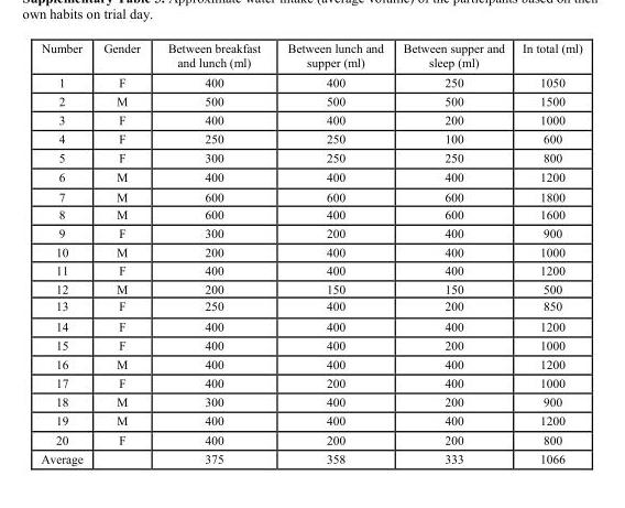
<table><thead><tr><td>Number</td><td>Gender</td><td>Between breakfast and lunch (ml)</td><td>Between lunch and supper (ml)</td><td>Between supper and sleep (ml)</td><td>In total (ml)</td></tr></thead><tbody><tr><td>1</td><td>F</td><td>400</td><td>400</td><td>250</td><td>1050</td></tr><tr><td>2</td><td>M</td><td>500</td><td>500</td><td>500</td><td>1500</td></tr><tr><td>3</td><td>F</td><td>400</td><td>400</td><td>200</td><td>1000</td></tr><tr><td>4</td><td>F</td><td>250</td><td>250</td><td>100</td><td>600</td></tr><tr><td>5</td><td>F</td><td>300</td><td>250</td><td>250</td><td>800</td></tr><tr><td>6</td><td>M</td><td>400</td><td>400</td><td>400</td><td>1200</td></tr><tr><td>7</td><td>M</td><td>600</td><td>600</td><td>600</td><td>1800</td></tr><tr><td>8</td><td>M</td><td>600</td><td>400</td><td>600</td><td>1600</td></tr><tr><td>9</td><td>F</td><td>300</td><td>200</td><td>400</td><td>900</td></tr><tr><td>10</td><td>M</td><td>200</td><td>400</td><td>400</td><td>1000</td></tr><tr><td>11</td><td>F</td><td>400</td><td>400</td><td>400</td><td>1200</td></tr><tr><td>12</td><td>M</td><td>200</td><td>150</td><td>150</td><td>500</td></tr><tr><td>13</td><td>F</td><td>250</td><td>400</td><td>200</td><td>850</td></tr><tr><td>14</td><td>F</td><td>400</td><td>400</td><td>400</td><td>1200</td></tr><tr><td>15</td><td>F</td><td>400</td><td>400</td><td>200</td><td>1000</td></tr><tr><td>16</td><td>M</td><td>400</td><td>400</td><td>400</td><td>1200</td></tr><tr><td>17</td><td>F</td><td>400</td><td>200</td><td>400</td><td>1000</td></tr><tr><td>18</td><td>M</td><td>300</td><td>400</td><td>200</td><td>900</td></tr><tr><td>19</td><td>M</td><td>400</td><td>400</td><td>400</td><td>1200</td></tr><tr><td>20</td><td>F</td><td>400</td><td>200</td><td>200</td><td>800</td></tr><tr><td>Average</td><td></td><td>375</td><td>358</td><td>333</td><td>1066</td></tr></tbody></table>